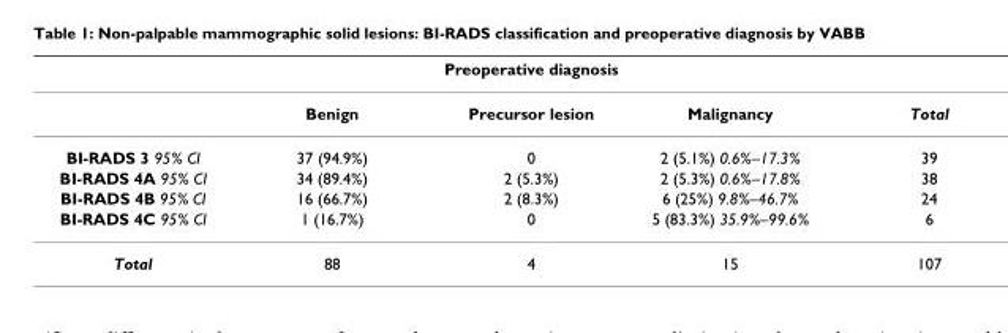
<table><thead><tr><td rowspan="2"></td><td colspan="3">Preoperative diagnosis</td><td rowspan="2">Total</td></tr><tr><td>Benign</td><td>Precursor lesion</td><td>Malignancy</td></tr></thead><tbody><tr><td>BI-RADS 3 95% CI</td><td>37 (94.9%)</td><td>0</td><td>2 (5.1%) 0.6%–17.3%</td><td>39</td></tr><tr><td>BI-RADS 4A 95% CI</td><td>34 (89.4%)</td><td>2 (5.3%)</td><td>2 (5.3%) 0.6%–17.8%</td><td>38</td></tr><tr><td>BI-RADS 4B 95% CI</td><td>16 (66.7%)</td><td>2 (8.3%)</td><td>6 (25%) 9.8%–46.7%</td><td>24</td></tr><tr><td>BI-RADS 4C 95% CI</td><td>1 (16.7%)</td><td>0</td><td>5 (83.3%) 35.9%–99.6%</td><td>6</td></tr><tr><td>Total</td><td>88</td><td>4</td><td>15</td><td>107</td></tr></tbody></table>